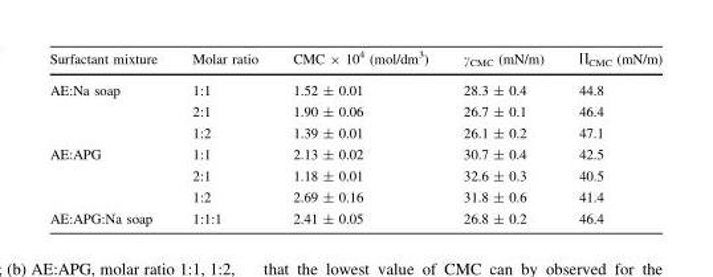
<table><thead><tr><td>Surfactant mixture</td><td>Molar ratio</td><td>CMC × 10<sup>4</sup> (mol/dm<sup>3</sup>)</td><td>γ<sub>CMC</sub> (mN/m)</td><td>П<sub>CMC</sub> (mN/m)</td></tr></thead><tbody><tr><td rowspan="3">AE:Na soap</td><td>1:1</td><td>1.52 ± 0.01</td><td>28.3 ± 0.4</td><td>44.8</td></tr><tr><td>2:1</td><td>1.90 ± 0.06</td><td>26.7 ± 0.1</td><td>46.4</td></tr><tr><td>1:2</td><td>1.39 ± 0.01</td><td>26.1 ± 0.2</td><td>47.1</td></tr><tr><td rowspan="3">AE:APG</td><td>1:1</td><td>2.13 ± 0.02</td><td>30.7 ± 0.4</td><td>42.5</td></tr><tr><td>2:1</td><td>1.18 ± 0.01</td><td>32.6 ± 0.3</td><td>40.5</td></tr><tr><td>1:2</td><td>2.69 ± 0.16</td><td>31.8 ± 0.6</td><td>41.4</td></tr><tr><td>AE:APG:Na soap</td><td>1:1:1</td><td>2.41 ± 0.05</td><td>26.8 ± 0.2</td><td>46.4</td></tr></tbody></table>